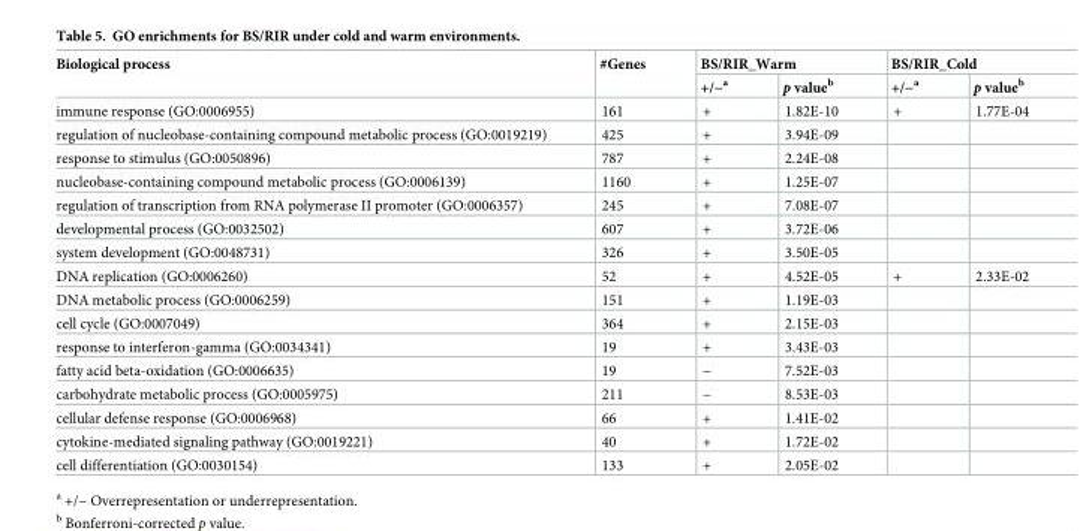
<table><thead><tr><td rowspan="2">Biological process</td><td rowspan="2">#Genes</td><td colspan="2">BS/RIR_Warm</td><td colspan="2">BS/RIR_Cold</td></tr><tr><td>+/−<sup>a</sup></td><td>p value<sup>b</sup></td><td>+/−<sup>a</sup></td><td>p value<sup>b</sup></td></tr></thead><tbody><tr><td>immune response (GO:0006955)</td><td>161</td><td>+</td><td>1.82E-10</td><td>+</td><td>1.77E-04</td></tr><tr><td>regulation of nucleobase-containing compound metabolic process (GO:0019219)</td><td>425</td><td>+</td><td>3.94E-09</td><td></td><td></td></tr><tr><td>response to stimulus (GO:0050896)</td><td>787</td><td>+</td><td>2.24E-08</td><td></td><td></td></tr><tr><td>nucleobase-containing compound metabolic process (GO:0006139)</td><td>1160</td><td>+</td><td>1.25E-07</td><td></td><td></td></tr><tr><td>regulation of transcription from RNA polymerase II promoter (GO:0006357)</td><td>245</td><td>+</td><td>7.08E-07</td><td></td><td></td></tr><tr><td>developmental process (GO:0032502)</td><td>607</td><td>+</td><td>3.72E-06</td><td></td><td></td></tr><tr><td>system development (GO:0048731)</td><td>326</td><td>+</td><td>3.50E-05</td><td></td><td></td></tr><tr><td>DNA replication (GO:0006260)</td><td>52</td><td>+</td><td>4.52E-05</td><td>+</td><td>2.33E-02</td></tr><tr><td>DNA metabolic process (GO:0006259)</td><td>151</td><td>+</td><td>1.19E-03</td><td></td><td></td></tr><tr><td>cell cycle (GO:0007049)</td><td>364</td><td>+</td><td>2.15E-03</td><td></td><td></td></tr><tr><td>response to interferon-gamma (GO:0034341)</td><td>19</td><td>+</td><td>3.43E-03</td><td></td><td></td></tr><tr><td>fatty acid beta-oxidation (GO:0006635)</td><td>19</td><td>−</td><td>7.52E-03</td><td></td><td></td></tr><tr><td>carbohydrate metabolic process (GO:0005975)</td><td>211</td><td>−</td><td>8.53E-03</td><td></td><td></td></tr><tr><td>cellular defense response (GO:0006968)</td><td>66</td><td>+</td><td>1.41E-02</td><td></td><td></td></tr><tr><td>cytokine-mediated signaling pathway (GO:0019221)</td><td>40</td><td>+</td><td>1.72E-02</td><td></td><td></td></tr><tr><td>cell differentiation (GO:0030154)</td><td>133</td><td>+</td><td>2.05E-02</td><td></td><td></td></tr></tbody></table>